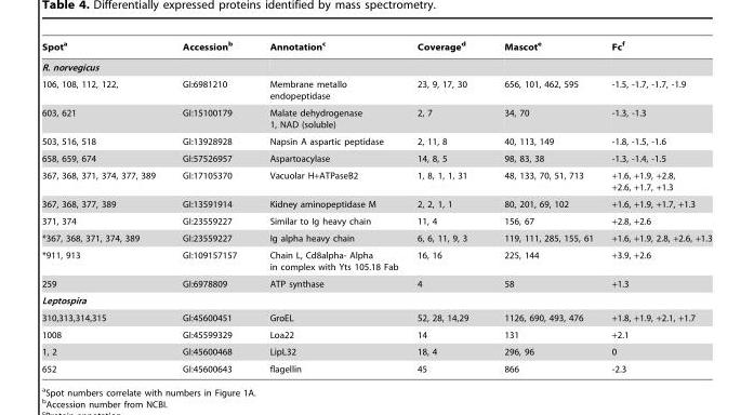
<table><thead><tr><td>Spot<sup>a</sup></td><td>Accession<sup>b</sup></td><td>Annotation<sup>c</sup></td><td>Coverage<sup>d</sup></td><td>Mascot<sup>e</sup></td><td>Fc<sup>f</sup></td></tr></thead><tbody><tr><td colspan="6">R. norvegicus</td></tr><tr><td>106, 108, 112, 122,</td><td>GI:6981210</td><td>Membrane metallo endopeptidase</td><td>23, 9, 17, 30</td><td>656, 101, 462, 595</td><td>-1.5, -1.7, -1.7, -1.9</td></tr><tr><td>603, 621</td><td>GI:15100179</td><td>Malate dehydrogenase 1, NAD (soluble)</td><td>2, 7</td><td>34, 70</td><td>-1.3, -1.3</td></tr><tr><td>503, 516, 518</td><td>GI:13928928</td><td>Napsin A aspartic peptidase</td><td>2, 11, 8</td><td>40, 113, 149</td><td>-1.8, -1.5, -1.6</td></tr><tr><td>658, 659, 674</td><td>GI:57526957</td><td>Aspartoacylase</td><td>14, 8, 5</td><td>98, 83, 38</td><td>-1.3, -1.4, -1.5</td></tr><tr><td>367, 368, 371, 374, 377, 389</td><td>GI:17105370</td><td>Vacuolar H+ATPaseB2</td><td>1, 8, 1, 1, 31</td><td>48, 133, 70, 51, 713</td><td>+1.6, +1.9, +2.8, +2.6, +1.7, +1.3</td></tr><tr><td>367, 368, 377, 389</td><td>GI:13591914</td><td>Kidney aminopeptidase M</td><td>2, 2, 1, 1</td><td>80, 201, 69, 102</td><td>+1.6, +1.9, +1.7, +1.3</td></tr><tr><td>371, 374</td><td>GI:23559227</td><td>Similar to Ig heavy chain</td><td>11, 4</td><td>156, 67</td><td>+2.8, +2.6</td></tr><tr><td>*367, 368, 371, 374, 389</td><td>GI:23559227</td><td>Ig alpha heavy chain</td><td>6, 6, 11, 9, 3</td><td>119, 111, 285, 155, 61</td><td>+1.6, +1.9, 2.8, +2.6, +1.3</td></tr><tr><td>*911, 913</td><td>GI:109157157</td><td>Chain L, Cd8alpha- Alpha in complex with Yts 105.18 Fab</td><td>16, 16</td><td>225, 144</td><td>+3.9, +2.6</td></tr><tr><td>259</td><td>GI:6978809</td><td>ATP synthase</td><td>4</td><td>58</td><td>+1.3</td></tr><tr><td colspan="6">Leptospira</td></tr><tr><td>310,313,314,315</td><td>GI:45600451</td><td>GroEL</td><td>52, 28, 14,29</td><td>1126, 690, 493, 476</td><td>+1.8, +1.9, +2.1, +1.7</td></tr><tr><td>1008</td><td>GI:45599329</td><td>Loa22</td><td>14</td><td>131</td><td>+2.1</td></tr><tr><td>1, 2</td><td>GI:45600468</td><td>LipL32</td><td>18, 4</td><td>296, 96</td><td>0</td></tr><tr><td>652</td><td>GI:45600643</td><td>flagellin</td><td>45</td><td>866</td><td>-2.3</td></tr></tbody></table>